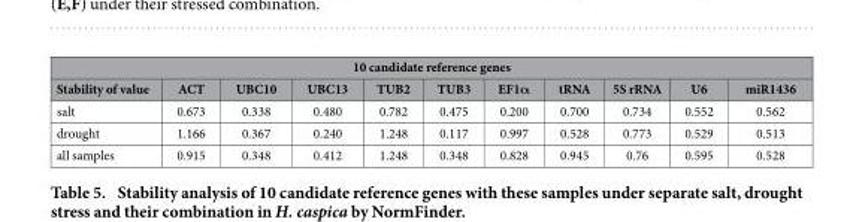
<table><thead><tr><td colspan="11">10 candidate reference genes</td></tr><tr><td>Stability of value</td><td>ACT</td><td>UBC10</td><td>UBC13</td><td>TUB2</td><td>TUB3</td><td>EF1α</td><td>tRNA</td><td>5S rRNA</td><td>U6</td><td>miR1436</td></tr></thead><tbody><tr><td>salt</td><td>0.673</td><td>0.338</td><td>0.480</td><td>0.782</td><td>0.475</td><td>0.200</td><td>0.700</td><td>0.734</td><td>0.552</td><td>0.562</td></tr><tr><td>drought</td><td>1.166</td><td>0.367</td><td>0.240</td><td>1.248</td><td>0.117</td><td>0.997</td><td>0.528</td><td>0.773</td><td>0.529</td><td>0.513</td></tr><tr><td>all samples</td><td>0.915</td><td>0.348</td><td>0.412</td><td>1.248</td><td>0.348</td><td>0.828</td><td>0.945</td><td>0.76</td><td>0.595</td><td>0.528</td></tr></tbody></table>